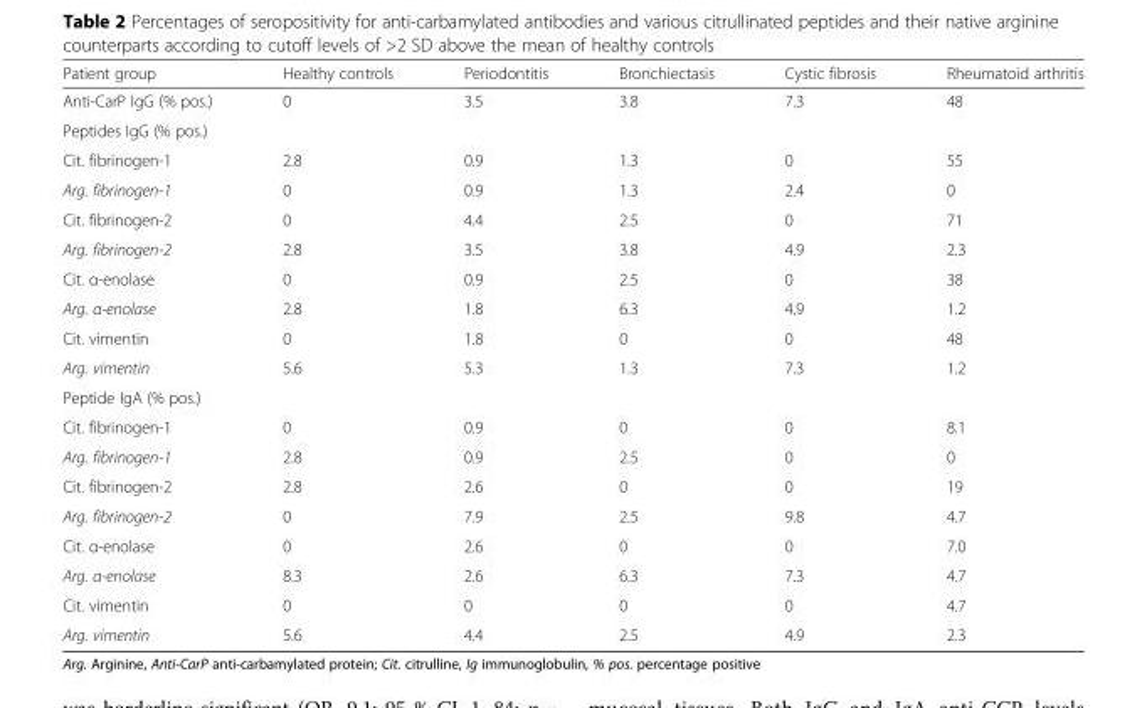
<table><thead><tr><td>Patient group</td><td>Healthy controls</td><td>Periodontitis</td><td>Bronchiectasis</td><td>Cystic fibrosis</td><td>Rheumatoid arthritis</td></tr></thead><tbody><tr><td>Anti-CarP IgG (% pos.)</td><td>0</td><td>3.5</td><td>3.8</td><td>7.3</td><td>48</td></tr><tr><td colspan="6">Peptides IgG (% pos.)</td></tr><tr><td>Cit. fibrinogen-1</td><td>2.8</td><td>0.9</td><td>1.3</td><td>0</td><td>55</td></tr><tr><td>Arg. fibrinogen-1</td><td>0</td><td>0.9</td><td>1.3</td><td>2.4</td><td>0</td></tr><tr><td>Cit. fibrinogen-2</td><td>0</td><td>4.4</td><td>2.5</td><td>0</td><td>71</td></tr><tr><td>Arg. fibrinogen-2</td><td>2.8</td><td>3.5</td><td>3.8</td><td>4.9</td><td>2.3</td></tr><tr><td>Cit. α-enolase</td><td>0</td><td>0.9</td><td>2.5</td><td>0</td><td>38</td></tr><tr><td>Arg. α-enolase</td><td>2.8</td><td>1.8</td><td>6.3</td><td>4.9</td><td>1.2</td></tr><tr><td>Cit. vimentin</td><td>0</td><td>1.8</td><td>0</td><td>0</td><td>48</td></tr><tr><td>Arg. vimentin</td><td>5.6</td><td>5.3</td><td>1.3</td><td>7.3</td><td>1.2</td></tr><tr><td colspan="6">Peptide IgA (% pos.)</td></tr><tr><td>Cit. fibrinogen-1</td><td>0</td><td>0.9</td><td>0</td><td>0</td><td>8.1</td></tr><tr><td>Arg. fibrinogen-1</td><td>2.8</td><td>0.9</td><td>2.5</td><td>0</td><td>0</td></tr><tr><td>Cit. fibrinogen-2</td><td>2.8</td><td>2.6</td><td>0</td><td>0</td><td>19</td></tr><tr><td>Arg. fibrinogen-2</td><td>0</td><td>7.9</td><td>2.5</td><td>9.8</td><td>4.7</td></tr><tr><td>Cit. α-enolase</td><td>0</td><td>2.6</td><td>0</td><td>0</td><td>7.0</td></tr><tr><td>Arg. α-enolase</td><td>8.3</td><td>2.6</td><td>6.3</td><td>7.3</td><td>4.7</td></tr><tr><td>Cit. vimentin</td><td>0</td><td>0</td><td>0</td><td>0</td><td>4.7</td></tr><tr><td>Arg. vimentin</td><td>5.6</td><td>4.4</td><td>2.5</td><td>4.9</td><td>2.3</td></tr></tbody></table>